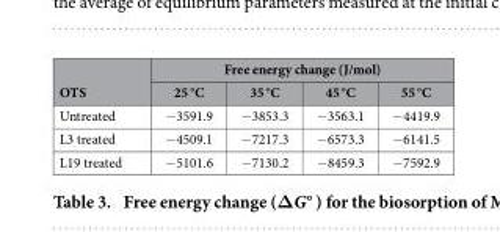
<table><thead><tr><td rowspan="2">OTS</td><td colspan="4">Free energy change (J/mol)</td></tr><tr><td>25 °C</td><td>35 °C</td><td>45 °C</td><td>55 °C</td></tr></thead><tbody><tr><td>Untreated</td><td>− 3591.9</td><td>− 3853.3</td><td>− 3563.1</td><td>− 4419.9</td></tr><tr><td>L3 treated</td><td>− 4509.1</td><td>− 7217.3</td><td>− 6573.3</td><td>− 6141.5</td></tr><tr><td>L19 treated</td><td>− 5101.6</td><td>− 7130.2</td><td>− 8459.3</td><td>− 7592.9</td></tr></tbody></table>